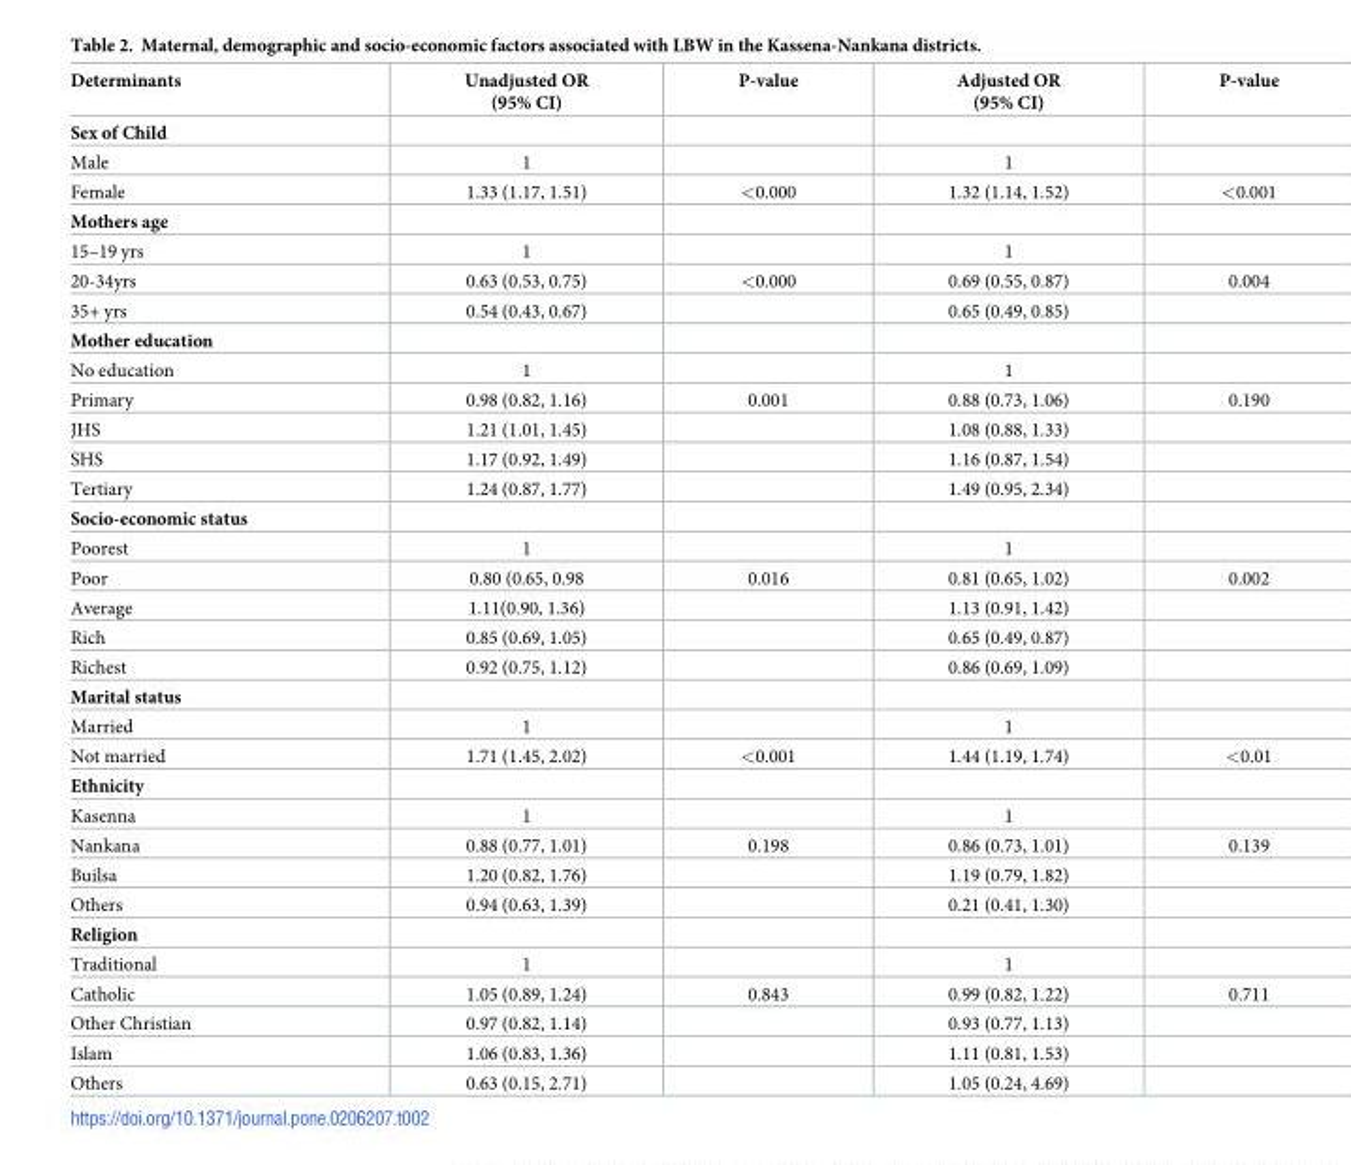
<table><thead><tr><td>Determinants</td><td>Unadjusted OR (95% CI)</td><td>P-value</td><td>Adjusted OR (95% CI)</td><td>P-value</td></tr></thead><tbody><tr><td colspan="5">Sex of Child</td></tr><tr><td>Male</td><td>1</td><td></td><td>1</td><td></td></tr><tr><td>Female</td><td>1.33 (1.17, 1.51)</td><td>&lt;0.000</td><td>1.32 (1.14, 1.52)</td><td>&lt;0.001</td></tr><tr><td colspan="5">Mothers age</td></tr><tr><td>15–19 yrs</td><td>1</td><td></td><td>1</td><td></td></tr><tr><td>20-34yrs</td><td>0.63 (0.53, 0.75)</td><td>&lt;0.000</td><td>0.69 (0.55, 0.87)</td><td>0.004</td></tr><tr><td>35+ yrs</td><td>0.54 (0.43, 0.67)</td><td></td><td>0.65 (0.49, 0.85)</td><td></td></tr><tr><td colspan="5">Mother education</td></tr><tr><td>No education</td><td>1</td><td></td><td>1</td><td></td></tr><tr><td>Primary</td><td>0.98 (0.82, 1.16)</td><td>0.001</td><td>0.88 (0.73, 1.06)</td><td>0.190</td></tr><tr><td>JHS</td><td>1.21 (1.01, 1.45)</td><td></td><td>1.08 (0.88, 1.33)</td><td></td></tr><tr><td>SHS</td><td>1.17 (0.92, 1.49)</td><td></td><td>1.16 (0.87, 1.54)</td><td></td></tr><tr><td>Tertiary</td><td>1.24 (0.87, 1.77)</td><td></td><td>1.49 (0.95, 2.34)</td><td></td></tr><tr><td colspan="5">Socio-economic status</td></tr><tr><td>Poorest</td><td>1</td><td></td><td>1</td><td></td></tr><tr><td>Poor</td><td>0.80 (0.65, 0.98</td><td>0.016</td><td>0.81 (0.65, 1.02)</td><td>0.002</td></tr><tr><td>Average</td><td>1.11(0.90, 1.36)</td><td></td><td>1.13 (0.91, 1.42)</td><td></td></tr><tr><td>Rich</td><td>0.85 (0.69, 1.05)</td><td></td><td>0.65 (0.49, 0.87)</td><td></td></tr><tr><td>Richest</td><td>0.92 (0.75, 1.12)</td><td></td><td>0.86 (0.69, 1.09)</td><td></td></tr><tr><td colspan="5">Marital status</td></tr><tr><td>Married</td><td>1</td><td></td><td>1</td><td></td></tr><tr><td>Not married</td><td>1.71 (1.45, 2.02)</td><td>&lt;0.001</td><td>1.44 (1.19, 1.74)</td><td>&lt;0.01</td></tr><tr><td colspan="5">Ethnicity</td></tr><tr><td>Kasenna</td><td>1</td><td></td><td>1</td><td></td></tr><tr><td>Nankana</td><td>0.88 (0.77, 1.01)</td><td>0.198</td><td>0.86 (0.73, 1.01)</td><td>0.139</td></tr><tr><td>Builsa</td><td>1.20 (0.82, 1.76)</td><td></td><td>1.19 (0.79, 1.82)</td><td></td></tr><tr><td>Others</td><td>0.94 (0.63, 1.39)</td><td></td><td>0.21 (0.41, 1.30)</td><td></td></tr><tr><td colspan="5">Religion</td></tr><tr><td>Traditional</td><td>1</td><td></td><td>1</td><td></td></tr><tr><td>Catholic</td><td>1.05 (0.89, 1.24)</td><td>0.843</td><td>0.99 (0.82, 1.22)</td><td>0.711</td></tr><tr><td>Other Christian</td><td>0.97 (0.82, 1.14)</td><td></td><td>0.93 (0.77, 1.13)</td><td></td></tr><tr><td>Islam</td><td>1.06 (0.83, 1.36)</td><td></td><td>1.11 (0.81, 1.53)</td><td></td></tr><tr><td>Others</td><td>0.63 (0.15, 2.71)</td><td></td><td>1.05 (0.24, 4.69)</td><td></td></tr></tbody></table>